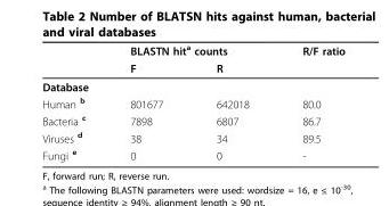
<table><thead><tr><td rowspan="2"></td><td colspan="2">BLASTN hit<sup>a</sup> counts</td><td rowspan="2">R/F ratio</td></tr><tr><td>F</td><td>R</td></tr></thead><tbody><tr><td colspan="4">Database</td></tr><tr><td>Human <sup>b</sup></td><td>801677</td><td>642018</td><td>80.0</td></tr><tr><td>Bacteria <sup>c</sup></td><td>7898</td><td>6807</td><td>86.7</td></tr><tr><td>Viruses <sup>d</sup></td><td>38</td><td>34</td><td>89.5</td></tr><tr><td>Fungi <sup>e</sup></td><td>0</td><td>0</td><td>-</td></tr></tbody></table>